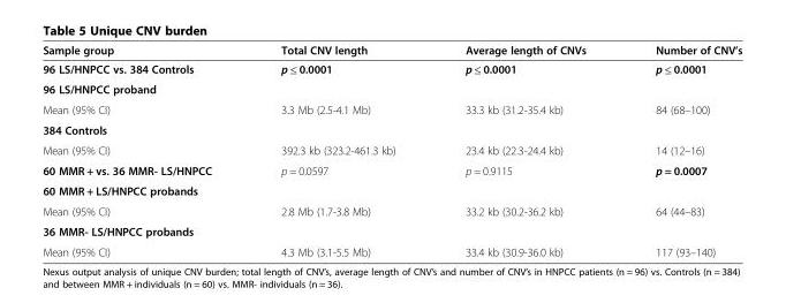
<table><thead><tr><td>Sample group</td><td>Total CNV length</td><td>Average length of CNVs</td><td>Number of CNV’s</td></tr></thead><tbody><tr><td>96 LS/HNPCC vs. 384 Controls</td><td>p ≤ 0.0001</td><td>p ≤ 0.0001</td><td>p ≤ 0.0001</td></tr><tr><td colspan="4">96 LS/HNPCC proband</td></tr><tr><td>Mean (95% CI)</td><td>3.3 Mb (2.5-4.1 Mb)</td><td>33.3 kb (31.2-35.4 kb)</td><td>84 (68–100)</td></tr><tr><td colspan="4">384 Controls</td></tr><tr><td>Mean (95% CI)</td><td>392.3 kb (323.2-461.3 kb)</td><td>23.4 kb (22.3-24.4 kb)</td><td>14 (12–16)</td></tr><tr><td>60 MMR + vs. 36 MMR- LS/HNPCC</td><td>p = 0.0597</td><td>p = 0.9115</td><td>p = 0.0007</td></tr><tr><td colspan="4">60 MMR + LS/HNPCC probands</td></tr><tr><td>Mean (95% CI)</td><td>2.8 Mb (1.7-3.8 Mb)</td><td>33.2 kb (30.2-36.2 kb)</td><td>64 (44–83)</td></tr><tr><td colspan="4">36 MMR- LS/HNPCC probands</td></tr><tr><td>Mean (95% CI)</td><td>4.3 Mb (3.1-5.5 Mb)</td><td>33.4 kb (30.9-36.0 kb)</td><td>117 (93–140)</td></tr></tbody></table>